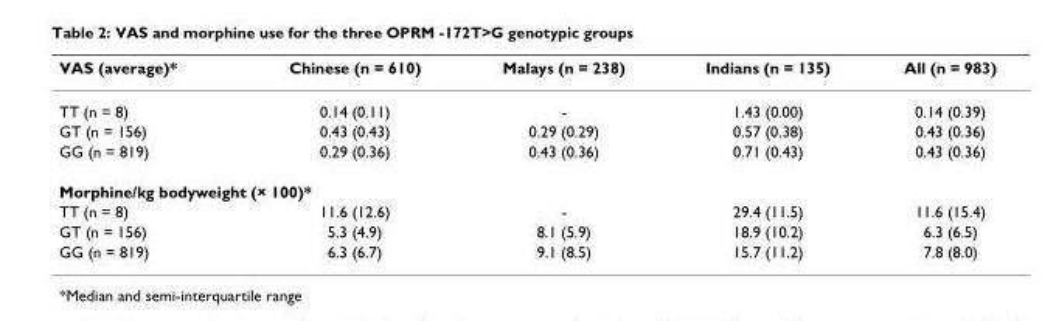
<table><thead><tr><td>VAS (average)*</td><td>Chinese (n = 610)</td><td>Malays (n = 238)</td><td>Indians (n = 135)</td><td>All (n = 983)</td></tr></thead><tbody><tr><td>TT (n = 8)</td><td>0.14 (0.11)</td><td>-</td><td>1.43 (0.00)</td><td>0.14 (0.39)</td></tr><tr><td>GT (n = 156)</td><td>0.43 (0.43)</td><td>0.29 (0.29)</td><td>0.57 (0.38)</td><td>0.43 (0.36)</td></tr><tr><td>GG (n = 819)</td><td>0.29 (0.36)</td><td>0.43 (0.36)</td><td>0.71 (0.43)</td><td>0.43 (0.36)</td></tr><tr><td colspan="5">Morphine/kg bodyweight (× 100)*</td></tr><tr><td>TT (n = 8)</td><td>11.6 (12.6)</td><td>-</td><td>29.4 (11.5)</td><td>11.6 (15.4)</td></tr><tr><td>GT (n = 156)</td><td>5.3 (4.9)</td><td>8.1 (5.9)</td><td>18.9 (10.2)</td><td>6.3 (6.5)</td></tr><tr><td>GG (n = 819)</td><td>6.3 (6.7)</td><td>9.1 (8.5)</td><td>15.7 (11.2)</td><td>7.8 (8.0)</td></tr></tbody></table>